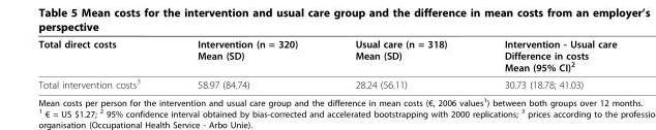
<table><thead><tr><td>Total direct costs</td><td>Intervention (n = 320) Mean (SD)</td><td>Usual care (n = 318) Mean (SD)</td><td>Intervention - Usual care Difference in costs Mean (95% CI)<sup>2</sup></td></tr></thead><tbody><tr><td>Total intervention costs<sup>3</sup></td><td>58.97 (84.74)</td><td>28.24 (56.11)</td><td>30.73 (18.78; 41.03)</td></tr></tbody></table>